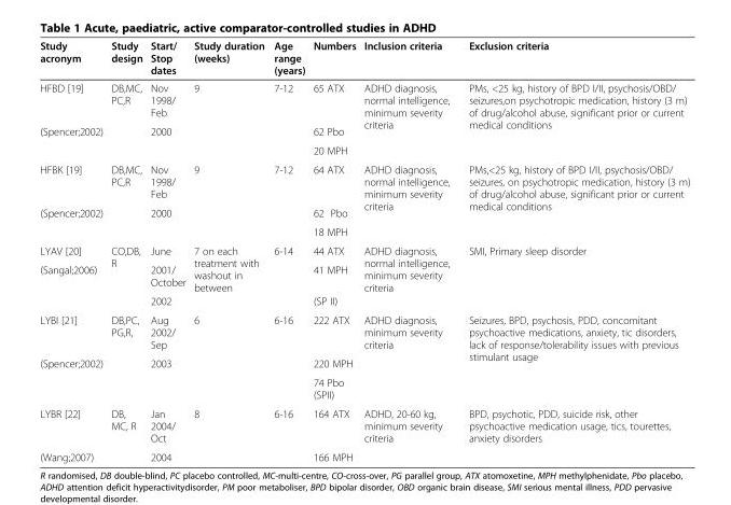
<table><thead><tr><td>Study acronym</td><td>Study design</td><td>Start/ Stop dates</td><td>Study duration (weeks)</td><td>Age range (years)</td><td>Numbers</td><td>Inclusion criteria</td><td>Exclusion criteria</td></tr></thead><tbody><tr><td>HFBD [19]</td><td rowspan="3">DB,MC, PC,R</td><td>Nov 1998/ Feb</td><td rowspan="3">9</td><td rowspan="3">7-12</td><td>65 ATX</td><td rowspan="3">ADHD diagnosis, normal intelligence, minimum severity criteria</td><td rowspan="3">PMs, &lt;25 kg, history of BPD I/II, psychosis/OBD/ seizures,on psychotropic medication, history (3 m) of drug/alcohol abuse, significant prior or current medical conditions</td></tr><tr><td rowspan="2">(Spencer;2002)</td><td rowspan="2">2000</td><td>62 Pbo</td></tr><tr><td>20 MPH</td></tr><tr><td>HFBK [19]</td><td rowspan="3">DB,MC, PC,R</td><td>Nov 1998/ Feb</td><td rowspan="3">9</td><td rowspan="3">7-12</td><td>64 ATX</td><td rowspan="3">ADHD diagnosis, normal intelligence, minimum severity criteria</td><td rowspan="3">PMs,&lt;25 kg, history of BPD I/II, psychosis/OBD/ seizures, on psychotropic medication, history (3 m) of drug/alcohol abuse, significant prior or current medical conditions</td></tr><tr><td rowspan="2">(Spencer;2002)</td><td rowspan="2">2000</td><td>62 Pbo</td></tr><tr><td>18 MPH</td></tr><tr><td>LYAV [20]</td><td rowspan="3">CO,DB, R</td><td>June</td><td rowspan="3">7 on each treatment with washout in between</td><td rowspan="3">6-14</td><td>44 ATX</td><td rowspan="3">ADHD diagnosis, normal intelligence, minimum severity criteria</td><td rowspan="3">SMI, Primary sleep disorder</td></tr><tr><td rowspan="2">(Sangal;2006)</td><td>2001/ October</td><td>41 MPH</td></tr><tr><td>2002</td><td>(SP II)</td></tr><tr><td>LYBI [21]</td><td rowspan="3">DB,PC, PG,R,</td><td>Aug 2002/ Sep</td><td rowspan="3">6</td><td rowspan="3">6-16</td><td>222 ATX</td><td rowspan="3">ADHD diagnosis, minimum severity criteria</td><td rowspan="3">Seizures, BPD, psychosis, PDD, concomitant psychoactive medications, anxiety, tic disorders, lack of response/tolerability issues with previous stimulant usage</td></tr><tr><td rowspan="2">(Spencer;2002)</td><td rowspan="2">2003</td><td>220 MPH</td></tr><tr><td>74 Pbo (SPII)</td></tr><tr><td>LYBR [22]</td><td>DB, MC, R</td><td>Jan 2004/ Oct</td><td>8</td><td>6-16</td><td>164 ATX</td><td>ADHD, 20-60 kg, minimum severity criteria</td><td>BPD, psychotic, PDD, suicide risk, other psychoactive medication usage, tics, tourettes, anxiety disorders</td></tr><tr><td>(Wang;2007)</td><td></td><td>2004</td><td></td><td></td><td>166 MPH</td><td></td><td></td></tr></tbody></table>